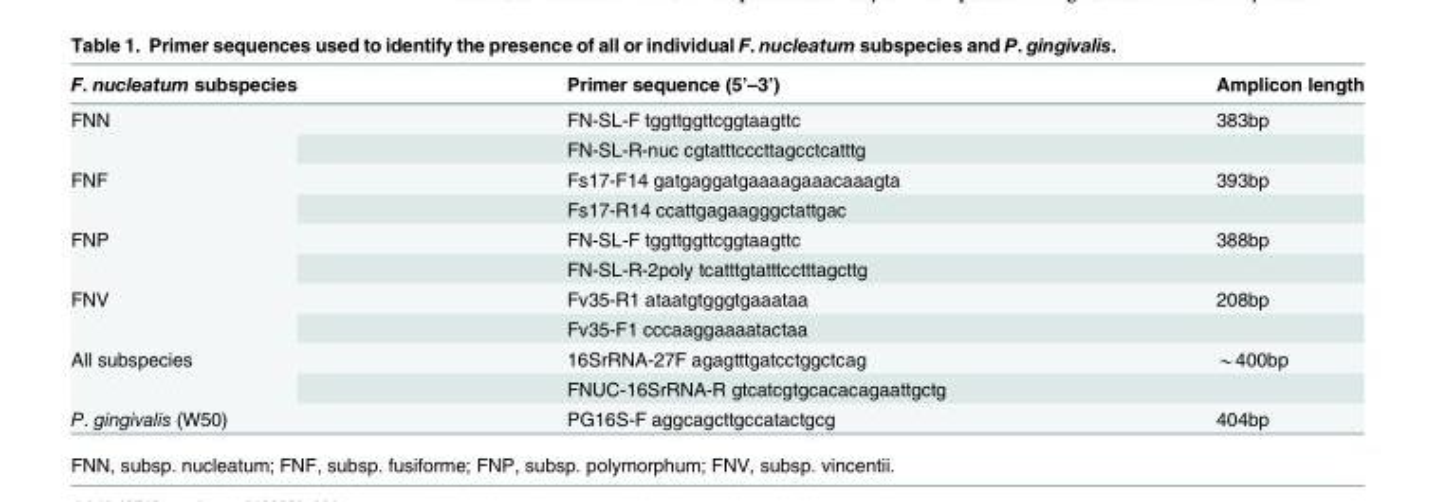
<table><thead><tr><td>F. nucleatum subspecies</td><td>Primer sequence (5’–3’)</td><td>Amplicon length</td></tr></thead><tbody><tr><td rowspan="2">FNN</td><td>FN-SL-F tggttggttcggtaagttc</td><td>383bp</td></tr><tr><td>FN-SL-R-nuc cgtatttcccttagcctcatttg</td><td></td></tr><tr><td rowspan="2">FNF</td><td>Fs17-F14 gatgaggatgaaaagaaacaaagta</td><td>393bp</td></tr><tr><td>Fs17-R14 ccattgagaagggctattgac</td><td></td></tr><tr><td rowspan="2">FNP</td><td>FN-SL-F tggttggttcggtaagttc</td><td>388bp</td></tr><tr><td>FN-SL-R-2poly tcatttgtatttcctttagcttg</td><td></td></tr><tr><td rowspan="2">FNV</td><td>Fv35-R1 ataatgtgggtgaaataa</td><td>208bp</td></tr><tr><td>Fv35-F1 cccaaggaaaatactaa</td><td></td></tr><tr><td rowspan="2">All subspecies</td><td>16SrRNA-27F agagtttgatcctggctcag</td><td>*400bp</td></tr><tr><td>FNUC-16SrRNA-R gtcatcgtgcacacagaattgctg</td><td></td></tr><tr><td>P. gingivalis (W50)</td><td>PG16S-F aggcagcttgccatactgcg</td><td>404bp</td></tr></tbody></table>